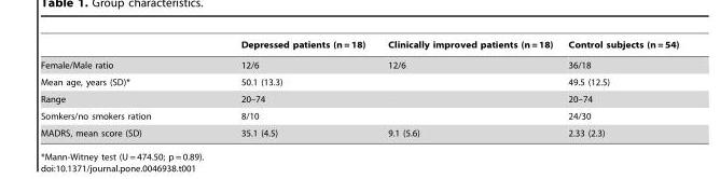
<table><thead><tr><td></td><td>Depressed patients (n = 18)</td><td>Clinically improved patients (n = 18)</td><td>Control subjects (n = 54)</td></tr></thead><tbody><tr><td>Female/Male ratio</td><td>12/6</td><td>12/6</td><td>36/18</td></tr><tr><td>Mean age, years (SD)*</td><td>50.1 (13.3)</td><td></td><td>49.5 (12.5)</td></tr><tr><td>Range</td><td>20–74</td><td></td><td>20–74</td></tr><tr><td>Somkers/no smokers ration</td><td>8/10</td><td></td><td>24/30</td></tr><tr><td>MADRS, mean score (SD)</td><td>35.1 (4.5)</td><td>9.1 (5.6)</td><td>2.33 (2.3)</td></tr></tbody></table>